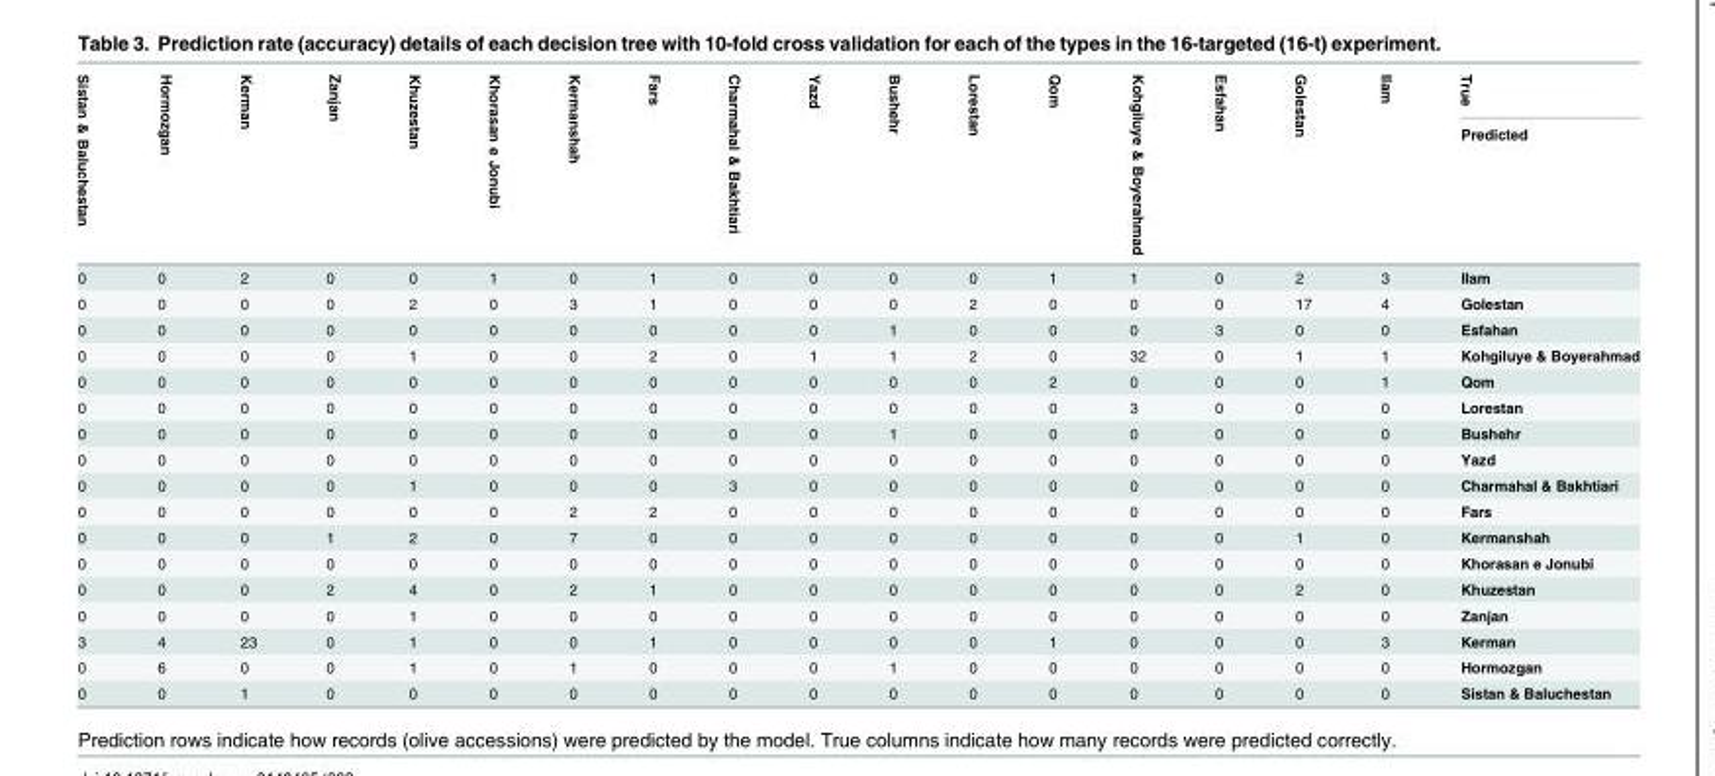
<table><thead><tr><td rowspan="2">Sistan &amp; Baluchestan</td><td rowspan="2">Hormozgan</td><td rowspan="2">Kerman</td><td rowspan="2">Zanjan</td><td rowspan="2">Khuzestan</td><td rowspan="2">Khorasan e Jonubi</td><td rowspan="2">Kermanshah</td><td rowspan="2">Fars</td><td rowspan="2">Charmahal &amp; Bakhtiari</td><td rowspan="2">Yazd</td><td rowspan="2">Bushehr</td><td rowspan="2">Lorestan</td><td rowspan="2">Qom</td><td rowspan="2">Kohgiluye &amp; Boyerahmad</td><td rowspan="2">Esfahan</td><td rowspan="2">Golestan</td><td rowspan="2">Ilam</td><td rowspan="2">True Predicted</td></tr><tr></tr></thead><tbody><tr><td>0</td><td>0</td><td>2</td><td>0</td><td>0</td><td>1</td><td>0</td><td>1</td><td>0</td><td>0</td><td>0</td><td>0</td><td>1</td><td>1</td><td>0</td><td>2</td><td>3</td><td>Ilam</td></tr><tr><td>0</td><td>0</td><td>0</td><td>0</td><td>2</td><td>0</td><td>3</td><td>1</td><td>0</td><td>0</td><td>0</td><td>2</td><td>0</td><td>0</td><td>0</td><td>17</td><td>4</td><td>Golestan</td></tr><tr><td>0</td><td>0</td><td>0</td><td>0</td><td>0</td><td>0</td><td>0</td><td>0</td><td>0</td><td>0</td><td>1</td><td>0</td><td>0</td><td>0</td><td>3</td><td>0</td><td>0</td><td>Esfahan</td></tr><tr><td>0</td><td>0</td><td>0</td><td>0</td><td>1</td><td>0</td><td>0</td><td>2</td><td>0</td><td>1</td><td>1</td><td>2</td><td>0</td><td>32</td><td>0</td><td>1</td><td>1</td><td>Kohgiluye &amp; Boyerahmad</td></tr><tr><td>0</td><td>0</td><td>0</td><td>0</td><td>0</td><td>0</td><td>0</td><td>0</td><td>0</td><td>0</td><td>0</td><td>0</td><td>2</td><td>0</td><td>0</td><td>0</td><td>1</td><td>Qom</td></tr><tr><td>0</td><td>0</td><td>0</td><td>0</td><td>0</td><td>0</td><td>0</td><td>0</td><td>0</td><td>0</td><td>0</td><td>0</td><td>0</td><td>3</td><td>0</td><td>0</td><td>0</td><td>Lorestan</td></tr><tr><td>0</td><td>0</td><td>0</td><td>0</td><td>0</td><td>0</td><td>0</td><td>0</td><td>0</td><td>0</td><td>1</td><td>0</td><td>0</td><td>0</td><td>0</td><td>0</td><td>0</td><td>Bushehr</td></tr><tr><td>0</td><td>0</td><td>0</td><td>0</td><td>0</td><td>0</td><td>0</td><td>0</td><td>0</td><td>0</td><td>0</td><td>0</td><td>0</td><td>0</td><td>0</td><td>0</td><td>0</td><td>Yazd</td></tr><tr><td>0</td><td>0</td><td>0</td><td>0</td><td>1</td><td>0</td><td>0</td><td>0</td><td>3</td><td>0</td><td>0</td><td>0</td><td>0</td><td>0</td><td>0</td><td>0</td><td>0</td><td>Charmahal &amp; Bakhtiari</td></tr><tr><td>0</td><td>0</td><td>0</td><td>0</td><td>0</td><td>0</td><td>2</td><td>2</td><td>0</td><td>0</td><td>0</td><td>0</td><td>0</td><td>0</td><td>0</td><td>0</td><td>0</td><td>Fars</td></tr><tr><td>0</td><td>0</td><td>0</td><td>1</td><td>2</td><td>0</td><td>7</td><td>0</td><td>0</td><td>0</td><td>0</td><td>0</td><td>0</td><td>0</td><td>0</td><td>1</td><td>0</td><td>Kermanshah</td></tr><tr><td>0</td><td>0</td><td>0</td><td>0</td><td>0</td><td>0</td><td>0</td><td>0</td><td>0</td><td>0</td><td>0</td><td>0</td><td>0</td><td>0</td><td>0</td><td>0</td><td>0</td><td>Khorasan e Jonubi</td></tr><tr><td>0</td><td>0</td><td>0</td><td>2</td><td>4</td><td>0</td><td>2</td><td>1</td><td>0</td><td>0</td><td>0</td><td>0</td><td>0</td><td>0</td><td>0</td><td>2</td><td>0</td><td>Khuzestan</td></tr><tr><td>0</td><td>0</td><td>0</td><td>0</td><td>1</td><td>0</td><td>0</td><td>0</td><td>0</td><td>0</td><td>0</td><td>0</td><td>0</td><td>0</td><td>0</td><td>0</td><td>0</td><td>Zanjan</td></tr><tr><td>3</td><td>4</td><td>23</td><td>0</td><td>1</td><td>0</td><td>0</td><td>1</td><td>0</td><td>0</td><td>0</td><td>0</td><td>1</td><td>0</td><td>0</td><td>0</td><td>3</td><td>Kerman</td></tr><tr><td>0</td><td>6</td><td>0</td><td>0</td><td>1</td><td>0</td><td>1</td><td>0</td><td>0</td><td>0</td><td>1</td><td>0</td><td>0</td><td>0</td><td>0</td><td>0</td><td>0</td><td>Hormozgan</td></tr><tr><td>0</td><td>0</td><td>1</td><td>0</td><td>0</td><td>0</td><td>0</td><td>0</td><td>0</td><td>0</td><td>0</td><td>0</td><td>0</td><td>0</td><td>0</td><td>0</td><td>0</td><td>Sistan &amp; Baluchestan</td></tr></tbody></table>